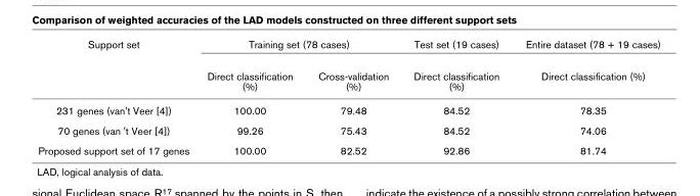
<table><thead><tr><td rowspan="2">Support set</td><td colspan="2">Training set (78 cases)</td><td rowspan="2">Test set (19 cases) Direct classification (%)</td><td rowspan="2">Entire dataset (78 + 19 cases) Direct classification (%)</td></tr><tr><td>Direct classification (%)</td><td>Cross-validation (%)</td></tr></thead><tbody><tr><td>231 genes (van&#x27;t Veer [4])</td><td>100.00</td><td>79.48</td><td>84.52</td><td>78.35</td></tr><tr><td>70 genes (van &#x27;t Veer [4])</td><td>99.26</td><td>75.43</td><td>84.52</td><td>74.06</td></tr><tr><td>Proposed support set of 17 genes</td><td>100.00</td><td>82.52</td><td>92.86</td><td>81.74</td></tr></tbody></table>